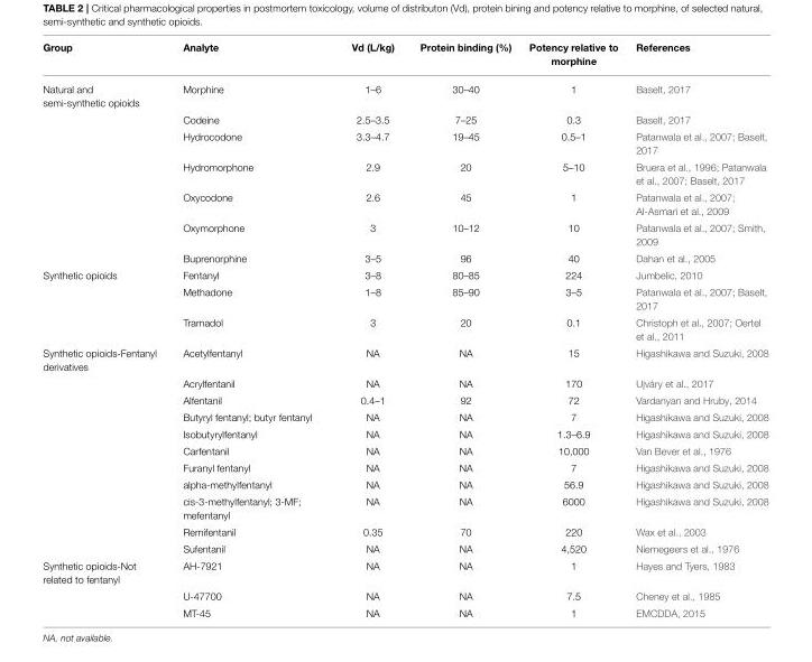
<table><thead><tr><td>Group</td><td>Analyte</td><td>Vd (L/kg)</td><td>Protein binding (%)</td><td>Potency relative to morphine</td><td>References</td></tr></thead><tbody><tr><td rowspan="7">Natural and semi-synthetic opioids</td><td>Morphine</td><td>1–6</td><td>30–40</td><td>1</td><td>Baselt, 2017</td></tr><tr><td>Codeine</td><td>2.5–3.5</td><td>7–25</td><td>0.3</td><td>Baselt, 2017</td></tr><tr><td>Hydrocodone</td><td>3.3–4.7</td><td>19–45</td><td>0.5–1</td><td>Patanwala et al., 2007; Baselt, 2017</td></tr><tr><td>Hydromorphone</td><td>2.9</td><td>20</td><td>5–10</td><td>Bruera et al., 1996; Patanwala et al., 2007; Baselt, 2017</td></tr><tr><td>Oxycodone</td><td>2.6</td><td>45</td><td>1</td><td>Patanwala et al., 2007; Al-Asmari et al., 2009</td></tr><tr><td>Oxymorphone</td><td>3</td><td>10–12</td><td>10</td><td>Patanwala et al., 2007; Smith, 2009</td></tr><tr><td>Buprenorphine</td><td>3–5</td><td>96</td><td>40</td><td>Dahan et al., 2005</td></tr><tr><td rowspan="3">Synthetic opioids</td><td>Fentanyl</td><td>3–8</td><td>80–85</td><td>224</td><td>Jumbelic, 2010</td></tr><tr><td>Methadone</td><td>1–8</td><td>85–90</td><td>3–5</td><td>Patanwala et al., 2007; Baselt, 2017</td></tr><tr><td>Tramadol</td><td>3</td><td>20</td><td>0.1</td><td>Christoph et al., 2007; Oertel et al., 2011</td></tr><tr><td rowspan="11">Synthetic opioids-Fentanyl derivatives</td><td>Acetylfentanyl</td><td>NA</td><td>NA</td><td>15</td><td>Higashikawa and Suzuki, 2008</td></tr><tr><td>Acrylfentanil</td><td>NA</td><td>NA</td><td>170</td><td>Ujváry et al., 2017</td></tr><tr><td>Alfentanil</td><td>0.4–1</td><td>92</td><td>72</td><td>Vardanyan and Hruby, 2014</td></tr><tr><td>Butyryl fentanyl; butyr fentanyl</td><td>NA</td><td>NA</td><td>7</td><td>Higashikawa and Suzuki, 2008</td></tr><tr><td>Isobutyrylfentanyl</td><td>NA</td><td>NA</td><td>1.3–6.9</td><td>Higashikawa and Suzuki, 2008</td></tr><tr><td>Carfentanil</td><td>NA</td><td>NA</td><td>10,000</td><td>Van Bever et al., 1976</td></tr><tr><td>Furanyl fentanyl</td><td>NA</td><td>NA</td><td>7</td><td>Higashikawa and Suzuki, 2008</td></tr><tr><td>alpha-methylfentanyl</td><td>NA</td><td>NA</td><td>56.9</td><td>Higashikawa and Suzuki, 2008</td></tr><tr><td>cis-3-methylfentanyl; 3-MF; mefentanyl</td><td>NA</td><td>NA</td><td>6000</td><td>Higashikawa and Suzuki, 2008</td></tr><tr><td>Remifentanil</td><td>0.35</td><td>70</td><td>220</td><td>Wax et al., 2003</td></tr><tr><td>Sufentanil</td><td>NA</td><td>NA</td><td>4,520</td><td>Niemegeers et al., 1976</td></tr><tr><td rowspan="3">Synthetic opioids-Not related to fentanyl</td><td>AH-7921</td><td>NA</td><td>NA</td><td>1</td><td>Hayes and Tyers, 1983</td></tr><tr><td>U-47700</td><td>NA</td><td>NA</td><td>7.5</td><td>Cheney et al., 1985</td></tr><tr><td>MT-45</td><td>NA</td><td>NA</td><td>1</td><td>EMCDDA, 2015</td></tr></tbody></table>